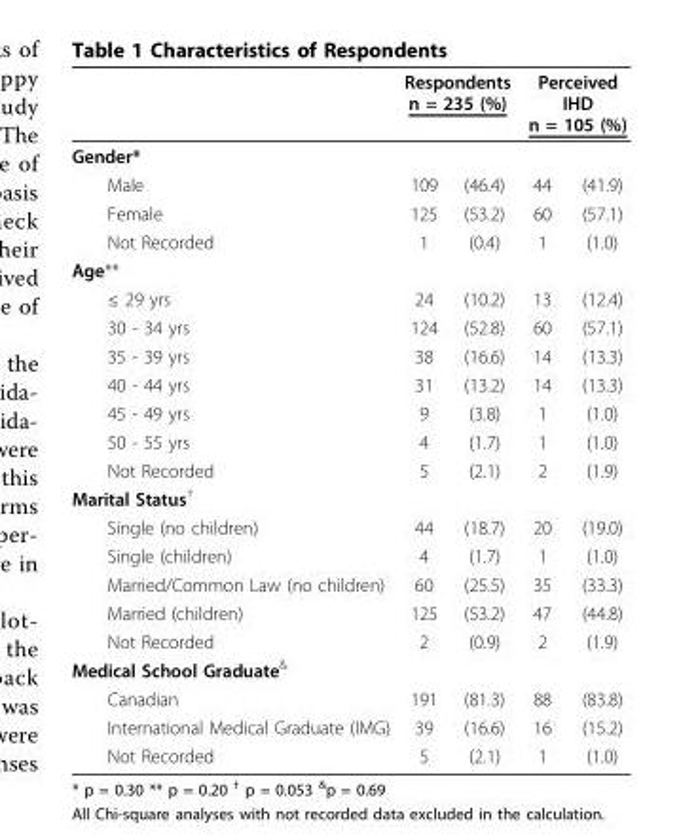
<table><thead><tr><td rowspan="2">Gender*</td><td colspan="2">Respondents n = 235 (%)</td><td colspan="2">Perceived IHD n = 105 (%)</td></tr><tr><td></td><td></td><td></td><td></td></tr></thead><tbody><tr><td>Male</td><td>109</td><td>(46.4)</td><td>44</td><td>(41.9)</td></tr><tr><td>Female</td><td>125</td><td>(53.2)</td><td>60</td><td>(57.1)</td></tr><tr><td>Not Recorded</td><td>1</td><td>(0.4)</td><td>1</td><td>(1.0)</td></tr><tr><td colspan="5">Age**</td></tr><tr><td>≤ 29 yrs</td><td>24</td><td>(10.2)</td><td>13</td><td>(12.4)</td></tr><tr><td>30 - 34 yrs</td><td>124</td><td>(52.8)</td><td>60</td><td>(57.1)</td></tr><tr><td>35 - 39 yrs</td><td>38</td><td>(16.6)</td><td>14</td><td>(13.3)</td></tr><tr><td>40 - 44 yrs</td><td>31</td><td>(13.2)</td><td>14</td><td>(13.3)</td></tr><tr><td>45 - 49 yrs</td><td>9</td><td>(3.8)</td><td>1</td><td>(1.0)</td></tr><tr><td>50 - 55 yrs</td><td>4</td><td>(1.7)</td><td>1</td><td>(1.0)</td></tr><tr><td>Not Recorded</td><td>5</td><td>(2.1)</td><td>2</td><td>(1.9)</td></tr><tr><td colspan="5">Marital Status<sup>†</sup></td></tr><tr><td>Single (no children)</td><td>44</td><td>(18.7)</td><td>20</td><td>(19.0)</td></tr><tr><td>Single (children)</td><td>4</td><td>(1.7)</td><td>1</td><td>(1.0)</td></tr><tr><td>Married/Common Law (no children)</td><td>60</td><td>(25.5)</td><td>35</td><td>(33.3)</td></tr><tr><td>Married (children)</td><td>125</td><td>(53.2)</td><td>47</td><td>(44.8)</td></tr><tr><td>Not Recorded</td><td>2</td><td>(0.9)</td><td>2</td><td>(1.9)</td></tr><tr><td colspan="5">Medical School Graduate<sup>&amp;</sup></td></tr><tr><td>Canadian</td><td>191</td><td>(81.3)</td><td>88</td><td>(83.8)</td></tr><tr><td>International Medical Graduate (IMG)</td><td>39</td><td>(16.6)</td><td>16</td><td>(15.2)</td></tr><tr><td>Not Recorded</td><td>5</td><td>(2.1)</td><td>1</td><td>(1.0)</td></tr></tbody></table>